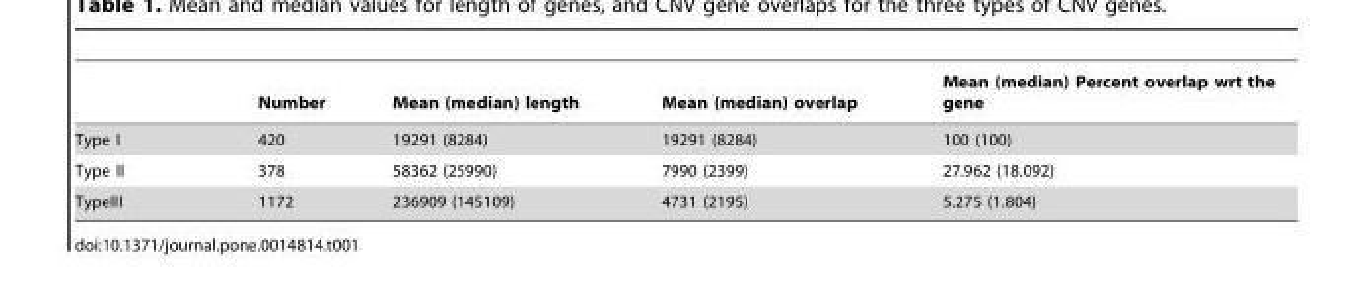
<table><thead><tr><td></td><td>Number</td><td>Mean (median) length</td><td>Mean (median) overlap</td><td>Mean (median) Percent overlap wrt the gene</td></tr></thead><tbody><tr><td>Type I</td><td>420</td><td>19291 (8284)</td><td>19291 (8284)</td><td>100 (100)</td></tr><tr><td>Type II</td><td>378</td><td>58362 (25990)</td><td>7990 (2399)</td><td>27.962 (18.092)</td></tr><tr><td>TypeIII</td><td>1172</td><td>236909 (145109)</td><td>4731 (2195)</td><td>5.275 (1.804)</td></tr></tbody></table>